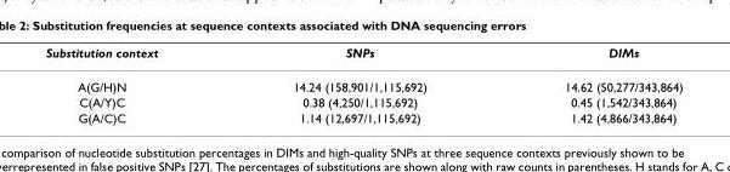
<table><thead><tr><td>Substitution context</td><td>SNPs</td><td>DIMs</td></tr></thead><tbody><tr><td>A(G/H)N</td><td>14.24 (158,901/1,115,692)</td><td>14.62 (50,277/343,864)</td></tr><tr><td>C(A/Y)C</td><td>0.38 (4,250/1,115,692)</td><td>0.45 (1,542/343,864)</td></tr><tr><td>G(A/C)C</td><td>1.14 (12,697/1,115,692)</td><td>1.42 (4,866/343,864)</td></tr></tbody></table>